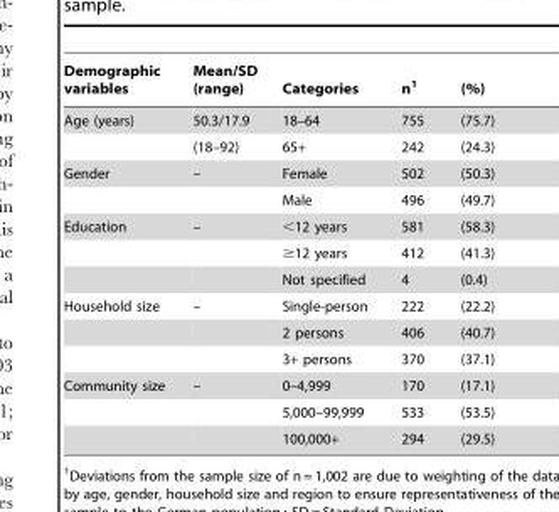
<table><thead><tr><td>Demographic variables</td><td>Mean/SD (range)</td><td>Categories</td><td>n<sup>1</sup></td><td>(%)</td></tr></thead><tbody><tr><td rowspan="2">Age (years)</td><td>50.3/17.9</td><td>18–64</td><td>755</td><td>(75.7)</td></tr><tr><td>(18–92)</td><td>65+</td><td>242</td><td>(24.3)</td></tr><tr><td rowspan="2">Gender</td><td>–</td><td>Female</td><td>502</td><td>(50.3)</td></tr><tr><td></td><td>Male</td><td>496</td><td>(49.7)</td></tr><tr><td rowspan="3">Education</td><td>–</td><td>&lt;12 years</td><td>581</td><td>(58.3)</td></tr><tr><td></td><td>≥12 years</td><td>412</td><td>(41.3)</td></tr><tr><td></td><td>Not specified</td><td>4</td><td>(0.4)</td></tr><tr><td rowspan="3">Household size</td><td>–</td><td>Single-person</td><td>222</td><td>(22.2)</td></tr><tr><td></td><td>2 persons</td><td>406</td><td>(40.7)</td></tr><tr><td></td><td>3+ persons</td><td>370</td><td>(37.1)</td></tr><tr><td rowspan="3">Community size</td><td>–</td><td>0–4,999</td><td>170</td><td>(17.1)</td></tr><tr><td></td><td>5,000–99,999</td><td>533</td><td>(53.5)</td></tr><tr><td></td><td>100,000+</td><td>294</td><td>(29.5)</td></tr></tbody></table>